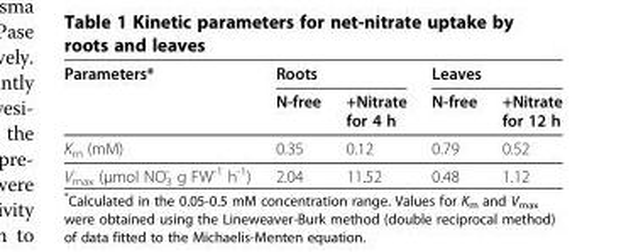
<table><thead><tr><td rowspan="2">Parameters*</td><td colspan="2">Roots</td><td colspan="2">Leaves</td></tr><tr><td>N-free</td><td>+Nitrate for 4 h</td><td>N-free</td><td>+Nitrate for 12 h</td></tr></thead><tbody><tr><td>K<sub>m</sub> (mM)</td><td>0.35</td><td>0.12</td><td>0.79</td><td>0.52</td></tr><tr><td>V<sub>max</sub> (μmol NO<sub>3</sub> <sup>-</sup> g FW<sup>-1</sup> h<sup>-1</sup>)</td><td>2.04</td><td>11.52</td><td>0.48</td><td>1.12</td></tr></tbody></table>